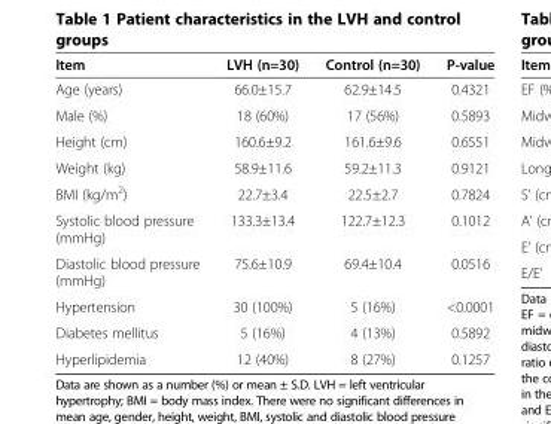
<table><thead><tr><td>Item</td><td>LVH (n=30)</td><td>Control (n=30)</td><td>P-value</td></tr></thead><tbody><tr><td>Age (years)</td><td>66.0±15.7</td><td>62.9±14.5</td><td>0.4321</td></tr><tr><td>Male (%)</td><td>18 (60%)</td><td>17 (56%)</td><td>0.5893</td></tr><tr><td>Height (cm)</td><td>160.6±9.2</td><td>161.6±9.6</td><td>0.6551</td></tr><tr><td>Weight (kg)</td><td>58.9±11.6</td><td>59.2±11.3</td><td>0.9121</td></tr><tr><td>BMI (kg/m<sup>2</sup>)</td><td>22.7±3.4</td><td>22.5±2.7</td><td>0.7824</td></tr><tr><td>Systolic blood pressure (mmHg)</td><td>133.3±13.4</td><td>122.7±12.3</td><td>0.1012</td></tr><tr><td>Diastolic blood pressure (mmHg)</td><td>75.6±10.9</td><td>69.4±10.4</td><td>0.0516</td></tr><tr><td>Hypertension</td><td>30 (100%)</td><td>5 (16%)</td><td>&lt;0.0001</td></tr><tr><td>Diabetes mellitus</td><td>5 (16%)</td><td>4 (13%)</td><td>0.5892</td></tr><tr><td>Hyperlipidemia</td><td>12 (40%)</td><td>8 (27%)</td><td>0.1257</td></tr></tbody></table>